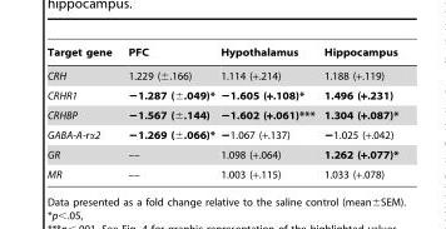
<table><thead><tr><td>Target gene</td><td>PFC</td><td>Hypothalamus</td><td>Hippocampus</td></tr></thead><tbody><tr><td>CRH</td><td>1.229 (±.166)</td><td>1.114 (+.214)</td><td>1.188 (+.119)</td></tr><tr><td>CRHR1</td><td>−1.287 (±.049)*</td><td>−1.605 (+.108)*</td><td>1.496 (+.231)</td></tr><tr><td>CRHBP</td><td>−1.567 (±.144)</td><td>−1.602 (+.061)***</td><td>1.304 (+.087)*</td></tr><tr><td>GABA-A-rα2</td><td>−1.269 (±.066)*</td><td>−1.067 (+.137)</td><td>−1.025 (+.042)</td></tr><tr><td>GR</td><td>––</td><td>1.098 (+.064)</td><td>1.262 (+.077)*</td></tr><tr><td>MR</td><td>––</td><td>1.003 (+.115)</td><td>1.033 (+.078)</td></tr></tbody></table>